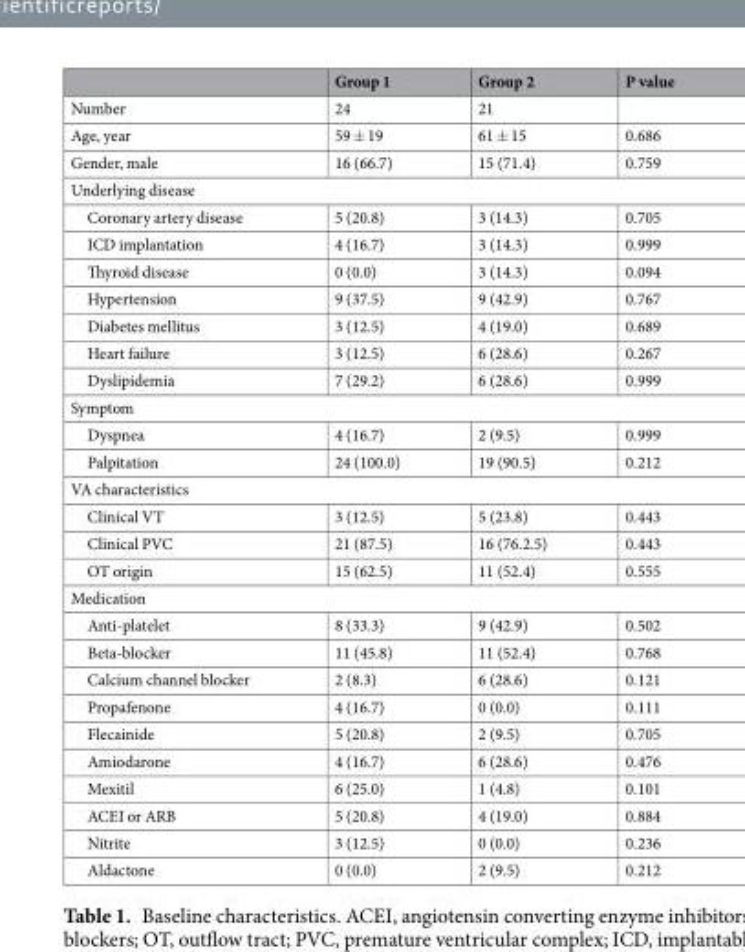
<table><thead><tr><td></td><td>Group 1</td><td>Group 2</td><td>P value</td></tr></thead><tbody><tr><td>Number</td><td>24</td><td>21</td><td></td></tr><tr><td>Age, year</td><td>59 ± 19</td><td>61 ± 15</td><td>0.686</td></tr><tr><td>Gender, male</td><td>16 (66.7)</td><td>15 (71.4)</td><td>0.759</td></tr><tr><td colspan="4">Underlying disease</td></tr><tr><td>Coronary artery disease</td><td>5 (20.8)</td><td>3 (14.3)</td><td>0.705</td></tr><tr><td>ICD implantation</td><td>4 (16.7)</td><td>3 (14.3)</td><td>0.999</td></tr><tr><td>Thyroid disease</td><td>0 (0.0)</td><td>3 (14.3)</td><td>0.094</td></tr><tr><td>Hypertension</td><td>9 (37.5)</td><td>9 (42.9)</td><td>0.767</td></tr><tr><td>Diabetes mellitus</td><td>3 (12.5)</td><td>4 (19.0)</td><td>0.689</td></tr><tr><td>Heart failure</td><td>3 (12.5)</td><td>6 (28.6)</td><td>0.267</td></tr><tr><td>Dyslipidemia</td><td>7 (29.2)</td><td>6 (28.6)</td><td>0.999</td></tr><tr><td colspan="4">Symptom</td></tr><tr><td>Dyspnea</td><td>4 (16.7)</td><td>2 (9.5)</td><td>0.999</td></tr><tr><td>Palpitation</td><td>24 (100.0)</td><td>19 (90.5)</td><td>0.212</td></tr><tr><td colspan="4">VA characteristics</td></tr><tr><td>Clinical VT</td><td>3 (12.5)</td><td>5 (23.8)</td><td>0.443</td></tr><tr><td>Clinical PVC</td><td>21 (87.5)</td><td>16 (76.2.5)</td><td>0.443</td></tr><tr><td>OT origin</td><td>15 (62.5)</td><td>11 (52.4)</td><td>0.555</td></tr><tr><td colspan="4">Medication</td></tr><tr><td>Anti-platelet</td><td>8 (33.3)</td><td>9 (42.9)</td><td>0.502</td></tr><tr><td>Beta-blocker</td><td>11 (45.8)</td><td>11 (52.4)</td><td>0.768</td></tr><tr><td>Calcium channel blocker</td><td>2 (8.3)</td><td>6 (28.6)</td><td>0.121</td></tr><tr><td>Propafenone</td><td>4 (16.7)</td><td>0 (0.0)</td><td>0.111</td></tr><tr><td>Flecainide</td><td>5 (20.8)</td><td>2 (9.5)</td><td>0.705</td></tr><tr><td>Amiodarone</td><td>4 (16.7)</td><td>6 (28.6)</td><td>0.476</td></tr><tr><td>Mexitil</td><td>6 (25.0)</td><td>1 (4.8)</td><td>0.101</td></tr><tr><td>ACEI or ARB</td><td>5 (20.8)</td><td>4 (19.0)</td><td>0.884</td></tr><tr><td>Nitrite</td><td>3 (12.5)</td><td>0 (0.0)</td><td>0.236</td></tr><tr><td>Aldactone</td><td>0 (0.0)</td><td>2 (9.5)</td><td>0.212</td></tr></tbody></table>